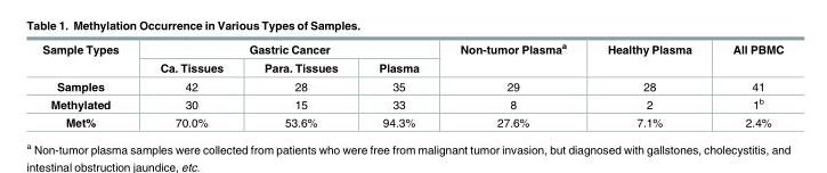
<table><thead><tr><td rowspan="2">Sample Types</td><td colspan="3">Gastric Cancer</td><td rowspan="2">Non-tumor Plasma<sup>a</sup></td><td rowspan="2">Healthy Plasma</td><td rowspan="2">All PBMC</td></tr><tr><td>Ca. Tissues</td><td>Para. Tissues</td><td>Plasma</td></tr></thead><tbody><tr><td>Samples</td><td>42</td><td>28</td><td>35</td><td>29</td><td>28</td><td>41</td></tr><tr><td>Methylated</td><td>30</td><td>15</td><td>33</td><td>8</td><td>2</td><td>1<sup>b</sup></td></tr><tr><td>Met%</td><td>70.0%</td><td>53.6%</td><td>94.3%</td><td>27.6%</td><td>7.1%</td><td>2.4%</td></tr></tbody></table>